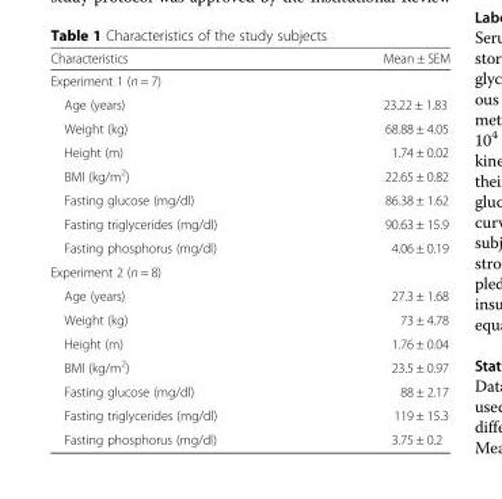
<table><thead><tr><td>Characteristics</td><td>Mean ± SEM</td></tr></thead><tbody><tr><td colspan="2">Experiment 1 (n = 7)</td></tr><tr><td>Age (years)</td><td>23.22 ± 1.83</td></tr><tr><td>Weight (kg)</td><td>68.88 ± 4.05</td></tr><tr><td>Height (m)</td><td>1.74 ± 0.02</td></tr><tr><td>BMI (kg/m<sup>2</sup>)</td><td>22.65 ± 0.82</td></tr><tr><td>Fasting glucose (mg/dl)</td><td>86.38 ± 1.62</td></tr><tr><td>Fasting triglycerides (mg/dl)</td><td>90.63 ± 15.9</td></tr><tr><td>Fasting phosphorus (mg/dl)</td><td>4.06 ± 0.19</td></tr><tr><td colspan="2">Experiment 2 (n = 8)</td></tr><tr><td>Age (years)</td><td>27.3 ± 1.68</td></tr><tr><td>Weight (kg)</td><td>73 ± 4.78</td></tr><tr><td>Height (m)</td><td>1.76 ± 0.04</td></tr><tr><td>BMI (kg/m<sup>2</sup>)</td><td>23.5 ± 0.97</td></tr><tr><td>Fasting glucose (mg/dl)</td><td>88 ± 2.17</td></tr><tr><td>Fasting triglycerides (mg/dl)</td><td>119 ± 15.3</td></tr><tr><td>Fasting phosphorus (mg/dl)</td><td>3.75 ± 0.2</td></tr></tbody></table>